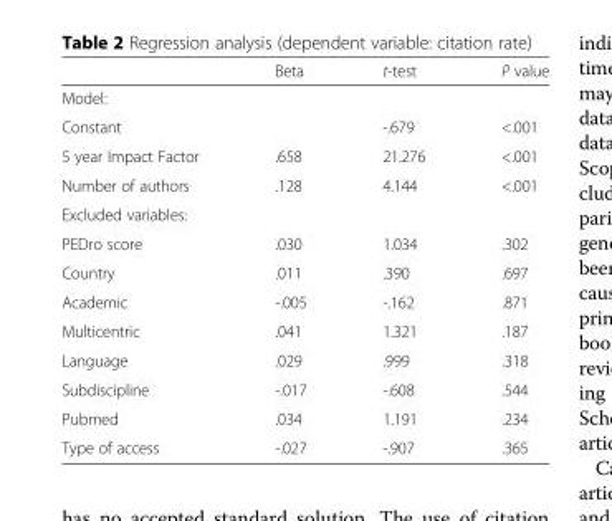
<table><thead><tr><td></td><td>Beta</td><td>t-test</td><td>P value</td></tr></thead><tbody><tr><td colspan="4">Model:</td></tr><tr><td>Constant</td><td></td><td>-.679</td><td>&lt;.001</td></tr><tr><td>5 year Impact Factor</td><td>.658</td><td>21.276</td><td>&lt;.001</td></tr><tr><td>Number of authors</td><td>.128</td><td>4.144</td><td>&lt;.001</td></tr><tr><td colspan="4">Excluded variables:</td></tr><tr><td>PEDro score</td><td>.030</td><td>1.034</td><td>.302</td></tr><tr><td>Country</td><td>.011</td><td>.390</td><td>.697</td></tr><tr><td>Academic</td><td>-.005</td><td>-.162</td><td>.871</td></tr><tr><td>Multicentric</td><td>.041</td><td>1.321</td><td>.187</td></tr><tr><td>Language</td><td>.029</td><td>.999</td><td>.318</td></tr><tr><td>Subdiscipline</td><td>-.017</td><td>-.608</td><td>.544</td></tr><tr><td>Pubmed</td><td>.034</td><td>1.191</td><td>.234</td></tr><tr><td>Type of access</td><td>-.027</td><td>-.907</td><td>.365</td></tr></tbody></table>